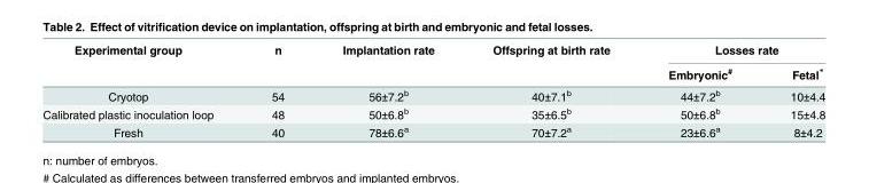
<table><thead><tr><td rowspan="2">Experimental group</td><td rowspan="2">n</td><td rowspan="2">Implantation rate</td><td rowspan="2">Offspring at birth rate</td><td colspan="2">Losses rate</td></tr><tr><td>Embryonic<sup>#</sup></td><td>Fetal*</td></tr></thead><tbody><tr><td>Cryotop</td><td>54</td><td>56±7.2<sup>b</sup></td><td>40±7.1<sup>b</sup></td><td>44±7.2<sup>b</sup></td><td>10±4.4</td></tr><tr><td>Calibrated plastic inoculation loop</td><td>48</td><td>50±6.8<sup>b</sup></td><td>35±6.5<sup>b</sup></td><td>50±6.8<sup>b</sup></td><td>15±4.8</td></tr><tr><td>Fresh</td><td>40</td><td>78±6.6<sup>a</sup></td><td>70±7.2<sup>a</sup></td><td>23±6.6<sup>a</sup></td><td>8±4.2</td></tr></tbody></table>